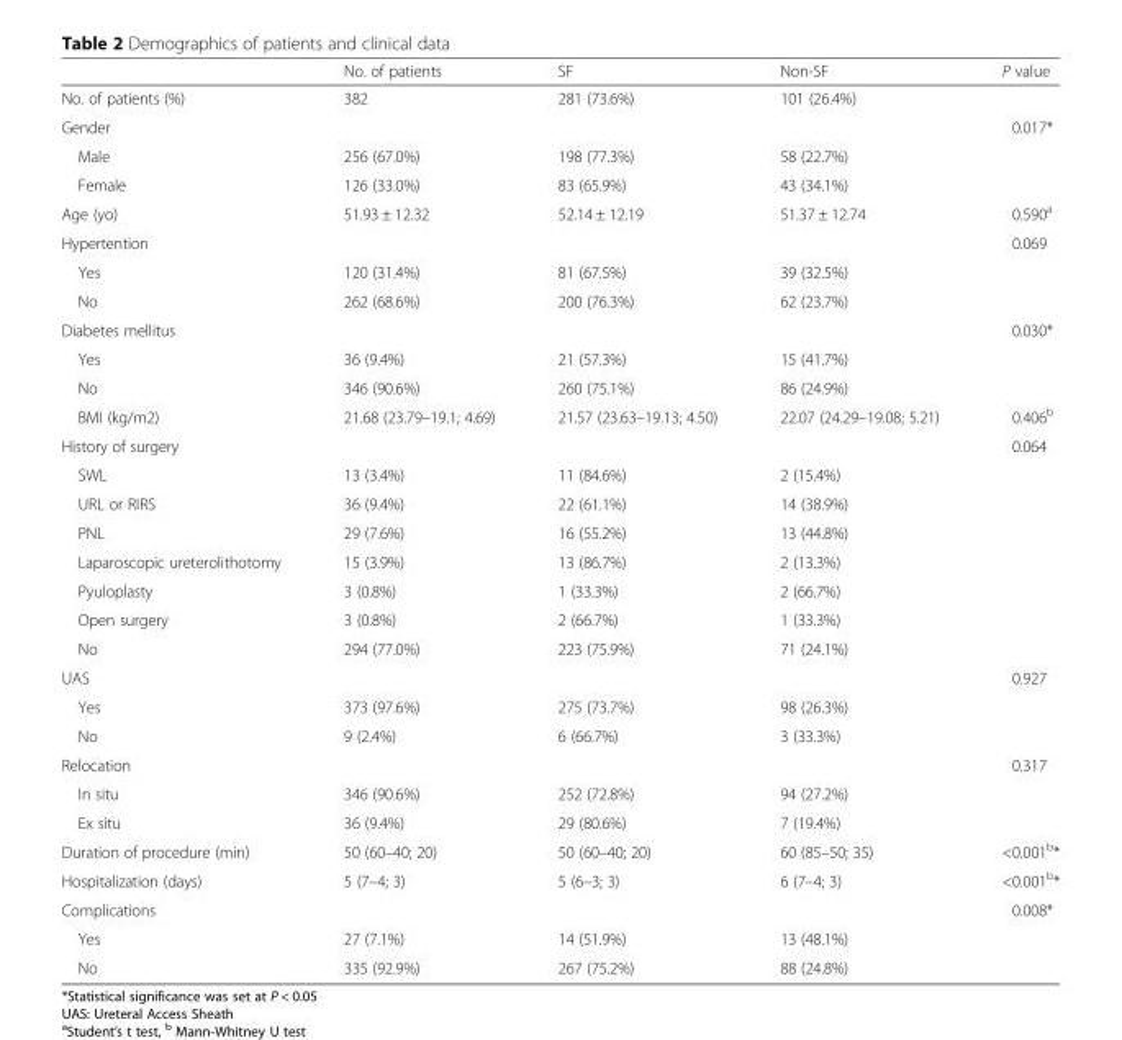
<table><thead><tr><td></td><td>No. of patients</td><td>SF</td><td>Non-SF</td><td>P value</td></tr></thead><tbody><tr><td>No. of patients (%)</td><td>382</td><td>281 (73.6%)</td><td>101 (26.4%)</td><td></td></tr><tr><td>Gender</td><td></td><td></td><td></td><td>0.017*</td></tr><tr><td>Male</td><td>256 (67.0%)</td><td>198 (77.3%)</td><td>58 (22.7%)</td><td></td></tr><tr><td>Female</td><td>126 (33.0%)</td><td>83 (65.9%)</td><td>43 (34.1%)</td><td></td></tr><tr><td>Age (yo)</td><td>51.93 ± 12.32</td><td>52.14 ± 12.19</td><td>51.37 ± 12.74</td><td>0.590<sup>a</sup></td></tr><tr><td>Hypertention</td><td></td><td></td><td></td><td>0.069</td></tr><tr><td>Yes</td><td>120 (31.4%)</td><td>81 (67.5%)</td><td>39 (32.5%)</td><td></td></tr><tr><td>No</td><td>262 (68.6%)</td><td>200 (76.3%)</td><td>62 (23.7%)</td><td></td></tr><tr><td>Diabetes mellitus</td><td></td><td></td><td></td><td>0.030*</td></tr><tr><td>Yes</td><td>36 (9.4%)</td><td>21 (57.3%)</td><td>15 (41.7%)</td><td></td></tr><tr><td>No</td><td>346 (90.6%)</td><td>260 (75.1%)</td><td>86 (24.9%)</td><td></td></tr><tr><td>BMI (kg/m2)</td><td>21.68 (23.79–19.1; 4.69)</td><td>21.57 (23.63–19.13; 4.50)</td><td>22.07 (24.29–19.08; 5.21)</td><td>0.406<sup>b</sup></td></tr><tr><td>History of surgery</td><td></td><td></td><td></td><td>0.064</td></tr><tr><td>SWL</td><td>13 (3.4%)</td><td>11 (84.6%)</td><td>2 (15.4%)</td><td></td></tr><tr><td>URL or RIRS</td><td>36 (9.4%)</td><td>22 (61.1%)</td><td>14 (38.9%)</td><td></td></tr><tr><td>PNL</td><td>29 (7.6%)</td><td>16 (55.2%)</td><td>13 (44.8%)</td><td></td></tr><tr><td>Laparoscopic ureterolithotomy</td><td>15 (3.9%)</td><td>13 (86.7%)</td><td>2 (13.3%)</td><td></td></tr><tr><td>Pyuloplasty</td><td>3 (0.8%)</td><td>1 (33.3%)</td><td>2 (66.7%)</td><td></td></tr><tr><td>Open surgery</td><td>3 (0.8%)</td><td>2 (66.7%)</td><td>1 (33.3%)</td><td></td></tr><tr><td>No</td><td>294 (77.0%)</td><td>223 (75.9%)</td><td>71 (24.1%)</td><td></td></tr><tr><td>UAS</td><td></td><td></td><td></td><td>0.927</td></tr><tr><td>Yes</td><td>373 (97.6%)</td><td>275 (73.7%)</td><td>98 (26.3%)</td><td></td></tr><tr><td>No</td><td>9 (2.4%)</td><td>6 (66.7%)</td><td>3 (33.3%)</td><td></td></tr><tr><td>Relocation</td><td></td><td></td><td></td><td>0.317</td></tr><tr><td>In situ</td><td>346 (90.6%)</td><td>252 (72.8%)</td><td>94 (27.2%)</td><td></td></tr><tr><td>Ex situ</td><td>36 (9.4%)</td><td>29 (80.6%)</td><td>7 (19.4%)</td><td></td></tr><tr><td>Duration of procedure (min)</td><td>50 (60–40; 20)</td><td>50 (60–40; 20)</td><td>60 (85–50; 35)</td><td>&lt;0.001<sup>b</sup>*</td></tr><tr><td>Hospitalization (days)</td><td>5 (7–4; 3)</td><td>5 (6–3; 3)</td><td>6 (7–4; 3)</td><td>&lt;0.001<sup>b</sup>*</td></tr><tr><td>Complications</td><td></td><td></td><td></td><td>0.008*</td></tr><tr><td>Yes</td><td>27 (7.1%)</td><td>14 (51.9%)</td><td>13 (48.1%)</td><td></td></tr><tr><td>No</td><td>335 (92.9%)</td><td>267 (75.2%)</td><td>88 (24.8%)</td><td></td></tr></tbody></table>